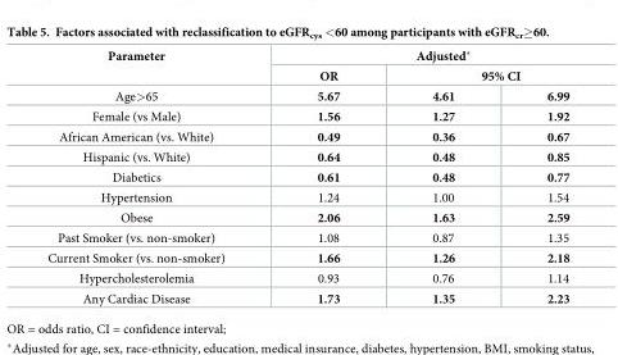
<table><thead><tr><td rowspan="3">Parameter Age&gt;65</td><td colspan="3">Adjusted*</td></tr><tr><td rowspan="2">OR 5.67</td><td colspan="2">95% CI</td></tr><tr><td>4.61</td><td>6.99</td></tr></thead><tbody><tr><td>Female (vs Male)</td><td>1.56</td><td>1.27</td><td>1.92</td></tr><tr><td>African American (vs. White)</td><td>0.49</td><td>0.36</td><td>0.67</td></tr><tr><td>Hispanic (vs. White)</td><td>0.64</td><td>0.48</td><td>0.85</td></tr><tr><td>Diabetics</td><td>0.61</td><td>0.48</td><td>0.77</td></tr><tr><td>Hypertension</td><td>1.24</td><td>1.00</td><td>1.54</td></tr><tr><td>Obese</td><td>2.06</td><td>1.63</td><td>2.59</td></tr><tr><td>Past Smoker (vs. non-smoker)</td><td>1.08</td><td>0.87</td><td>1.35</td></tr><tr><td>Current Smoker (vs. non-smoker)</td><td>1.66</td><td>1.26</td><td>2.18</td></tr><tr><td>Hypercholesterolemia</td><td>0.93</td><td>0.76</td><td>1.14</td></tr><tr><td>Any Cardiac Disease</td><td>1.73</td><td>1.35</td><td>2.23</td></tr></tbody></table>